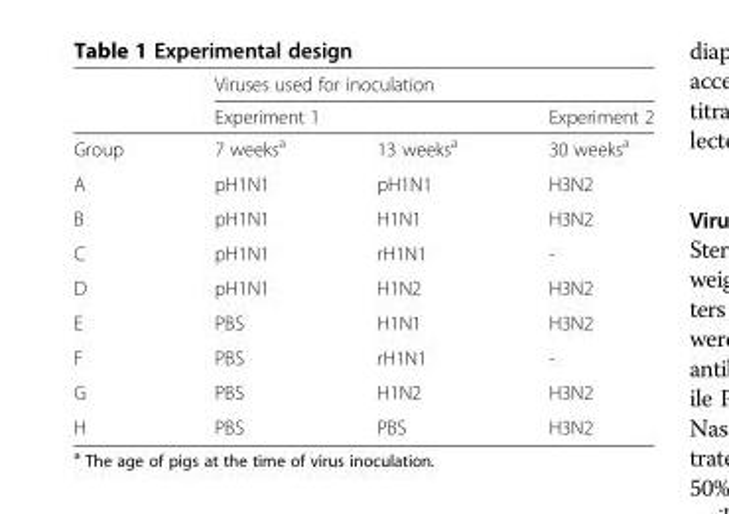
<table><thead><tr><td rowspan="3">Group</td><td colspan="3">Viruses used for inoculation</td></tr><tr><td colspan="2">Experiment 1</td><td rowspan="2">Experiment 2 30 weeks<sup>a</sup></td></tr><tr><td>7 weeks<sup>a</sup></td><td>13 weeks<sup>a</sup></td></tr></thead><tbody><tr><td>A</td><td>pH1N1</td><td>pH1N1</td><td>H3N2</td></tr><tr><td>B</td><td>pH1N1</td><td>H1N1</td><td>H3N2</td></tr><tr><td>C</td><td>pH1N1</td><td>rH1N1</td><td>-</td></tr><tr><td>D</td><td>pH1N1</td><td>H1N2</td><td>H3N2</td></tr><tr><td>E</td><td>PBS</td><td>H1N1</td><td>H3N2</td></tr><tr><td>F</td><td>PBS</td><td>rH1N1</td><td>-</td></tr><tr><td>G</td><td>PBS</td><td>H1N2</td><td>H3N2</td></tr><tr><td>H</td><td>PBS</td><td>PBS</td><td>H3N2</td></tr></tbody></table>